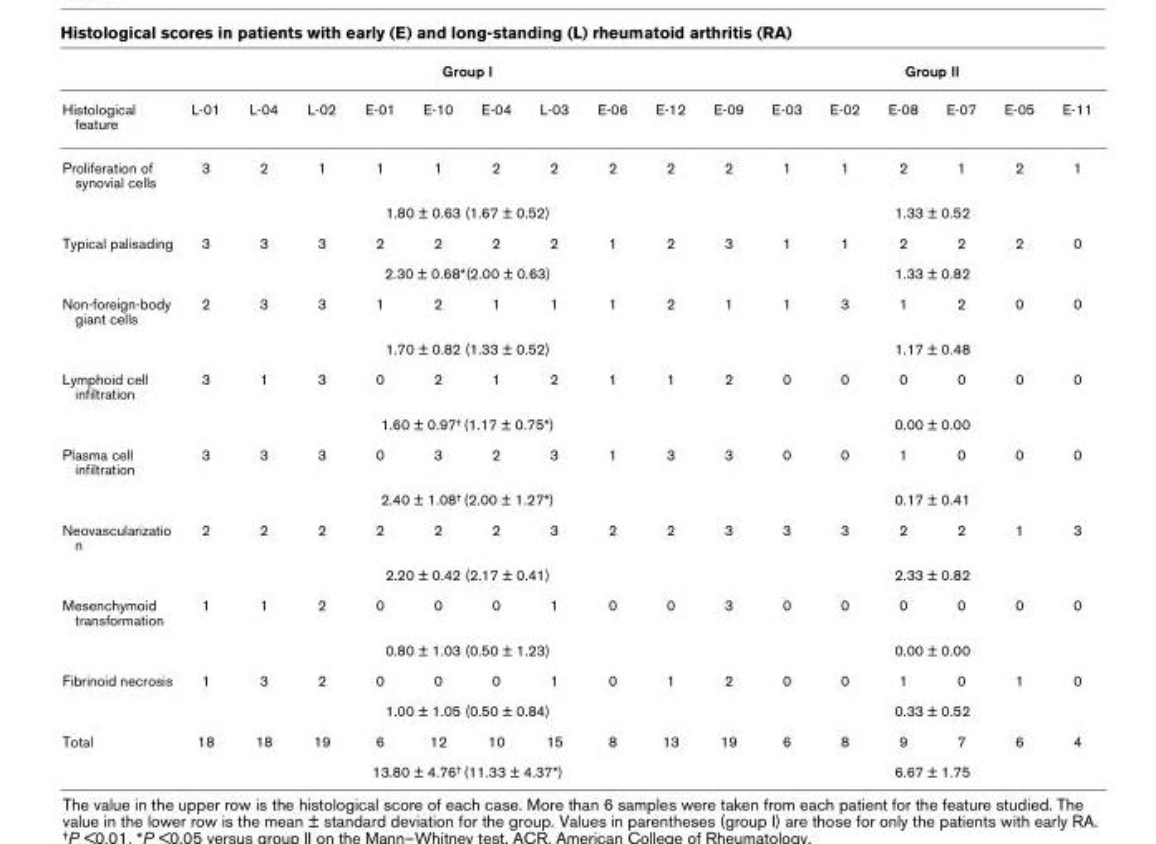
<table><thead><tr><td rowspan="2">Histological feature</td><td colspan="10">Group I</td><td colspan="6">Group II</td></tr><tr><td>L-01</td><td>L-04</td><td>L-02</td><td>E-01</td><td>E-10</td><td>E-04</td><td>L-03</td><td>E-06</td><td>E-12</td><td>E-09</td><td>E-03</td><td>E-02</td><td>E-08</td><td>E-07</td><td>E-05</td><td>E-11</td></tr></thead><tbody><tr><td rowspan="2">Proliferation of synovial cells</td><td>3</td><td>2</td><td>1</td><td>1</td><td>1</td><td>2</td><td>2</td><td>2</td><td>2</td><td>2</td><td>1</td><td>1</td><td>2</td><td>1</td><td>2</td><td>1</td></tr><tr><td colspan="10">1.80 ± 0.63 (1.67 ± 0.52)</td><td colspan="6">1.33 ± 0.52</td></tr><tr><td rowspan="2">Typical palisading</td><td>3</td><td>3</td><td>3</td><td>2</td><td>2</td><td>2</td><td>2</td><td>1</td><td>2</td><td>3</td><td>1</td><td>1</td><td>2</td><td>2</td><td>2</td><td>0</td></tr><tr><td colspan="10">2.30 ± 0.68*(2.00 ± 0.63)</td><td colspan="6">1.33 ± 0.82</td></tr><tr><td rowspan="2">Non-foreign-body giant cells</td><td>2</td><td>3</td><td>3</td><td>1</td><td>2</td><td>1</td><td>1</td><td>1</td><td>2</td><td>1</td><td>1</td><td>3</td><td>1</td><td>2</td><td>0</td><td>0</td></tr><tr><td colspan="10">1.70 ± 0.82 (1.33 ± 0.52)</td><td colspan="6">1.17 ± 0.48</td></tr><tr><td rowspan="2">Lymphoid cell infiltration</td><td>3</td><td>1</td><td>3</td><td>0</td><td>2</td><td>1</td><td>2</td><td>1</td><td>1</td><td>2</td><td>0</td><td>0</td><td>0</td><td>0</td><td>0</td><td>0</td></tr><tr><td colspan="10">1.60 ± 0.97† (1.17 ± 0.75*)</td><td colspan="6">0.00 ± 0.00</td></tr><tr><td rowspan="2">Plasma cell infiltration</td><td>3</td><td>3</td><td>3</td><td>0</td><td>3</td><td>2</td><td>3</td><td>1</td><td>3</td><td>3</td><td>0</td><td>0</td><td>1</td><td>0</td><td>0</td><td>0</td></tr><tr><td colspan="10">2.40 ± 1.08† (2.00 ± 1.27*)</td><td colspan="6">0.17 ± 0.41</td></tr><tr><td rowspan="2">Neovascularizatio n</td><td>2</td><td>2</td><td>2</td><td>2</td><td>2</td><td>2</td><td>3</td><td>2</td><td>2</td><td>3</td><td>3</td><td>3</td><td>2</td><td>2</td><td>1</td><td>3</td></tr><tr><td colspan="10">2.20 ± 0.42 (2.17 ± 0.41)</td><td colspan="6">2.33 ± 0.82</td></tr><tr><td rowspan="2">Mesenchymoid transformation</td><td>1</td><td>1</td><td>2</td><td>0</td><td>0</td><td>0</td><td>1</td><td>0</td><td>0</td><td>3</td><td>0</td><td>0</td><td>0</td><td>0</td><td>0</td><td>0</td></tr><tr><td colspan="10">0.80 ± 1.03 (0.50 ± 1.23)</td><td colspan="6">0.00 ± 0.00</td></tr><tr><td rowspan="2">Fibrinoid necrosis</td><td>1</td><td>3</td><td>2</td><td>0</td><td>0</td><td>0</td><td>1</td><td>0</td><td>1</td><td>2</td><td>0</td><td>0</td><td>1</td><td>0</td><td>1</td><td>0</td></tr><tr><td colspan="10">1.00 ± 1.05 (0.50 ± 0.84)</td><td colspan="6">0.33 ± 0.52</td></tr><tr><td rowspan="2">Total</td><td>18</td><td>18</td><td>19</td><td>6</td><td>12</td><td>10</td><td>15</td><td>8</td><td>13</td><td>19</td><td>6</td><td>8</td><td>9</td><td>7</td><td>6</td><td>4</td></tr><tr><td colspan="10">13.80 ± 4.76† (11.33 ± 4.37*)</td><td colspan="6">6.67 ± 1.75</td></tr></tbody></table>